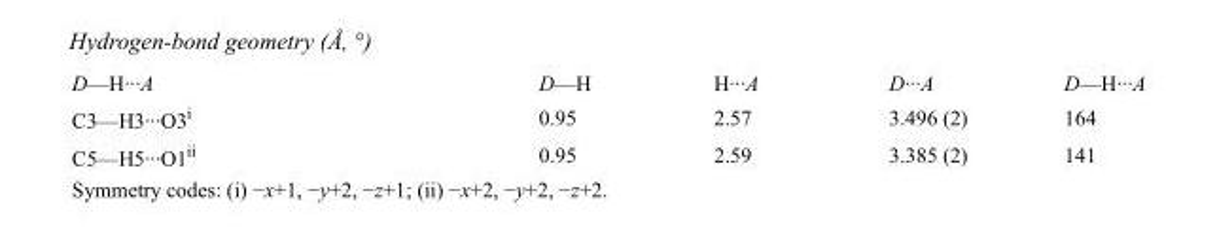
<table><tbody><tr><td>D—H···A</td><td>D—H</td><td>H···A</td><td>D···A</td><td>D—H···A</td></tr><tr><td>C3—H3···O3<sup>i</sup></td><td>0.95</td><td>2.57</td><td>3.496 (2)</td><td>164</td></tr><tr><td>C5—H5···O1<sup>ii</sup></td><td>0.95</td><td>2.59</td><td>3.385 (2)</td><td>141</td></tr></tbody></table>